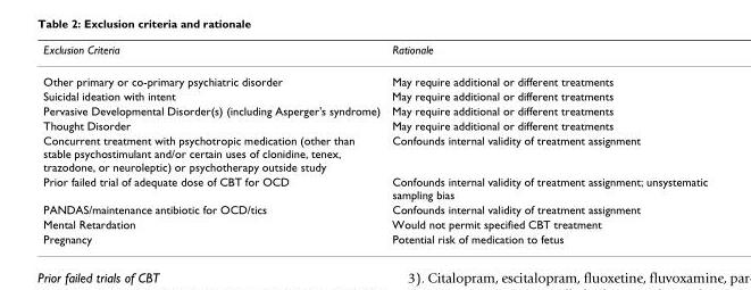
<table><thead><tr><td>Exclusion Criteria</td><td>Rationale</td></tr></thead><tbody><tr><td>Other primary or co-primary psychiatric disorder</td><td>May require additional or different treatments</td></tr><tr><td>Suicidal ideation with intent</td><td>May require additional or different treatments</td></tr><tr><td>Pervasive Developmental Disorder(s) (including Asperger&#x27;s syndrome)</td><td>May require additional or different treatments</td></tr><tr><td>Thought Disorder</td><td>May require additional or different treatments</td></tr><tr><td>Concurrent treatment with psychotropic medication (other than stable psychostimulant and/or certain uses of clonidine, tenex, trazodone, or neuroleptic) or psychotherapy outside study</td><td>Confounds internal validity of treatment assignment</td></tr><tr><td>Prior failed trial of adequate dose of CBT for OCD</td><td>Confounds internal validity of treatment assignment; unsystematic sampling bias</td></tr><tr><td>PANDAS/maintenance antibiotic for OCD/tics</td><td>Confounds internal validity of treatment assignment</td></tr><tr><td>Mental Retardation</td><td>Would not permit specified CBT treatment</td></tr><tr><td>Pregnancy</td><td>Potential risk of medication to fetus</td></tr></tbody></table>